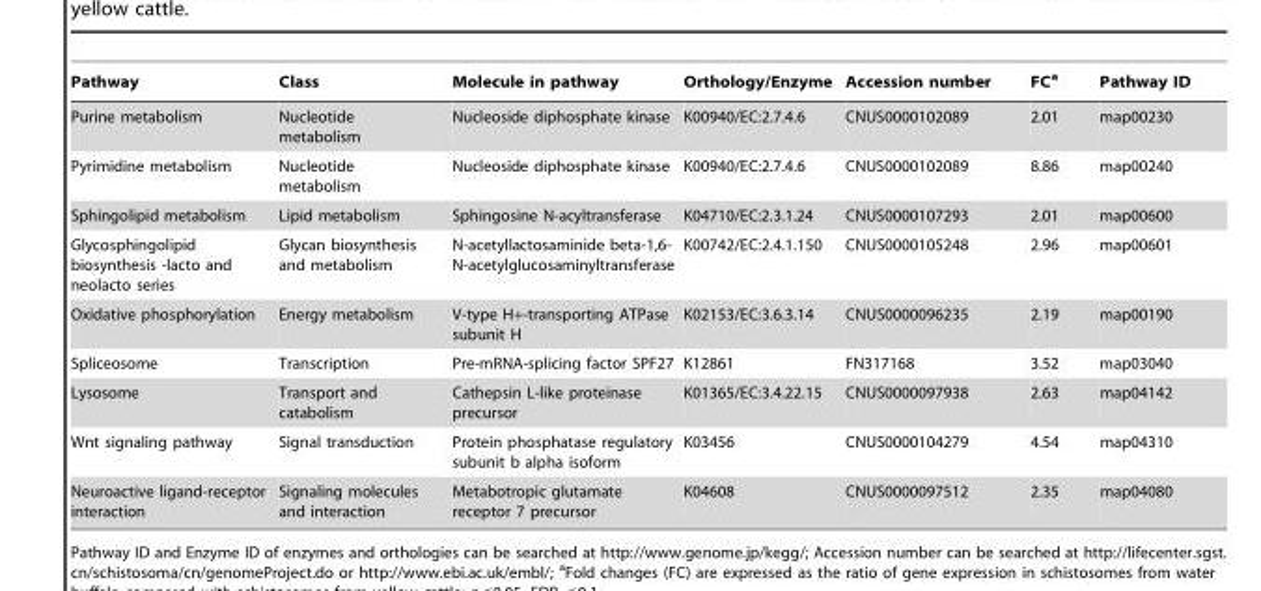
<table><thead><tr><td>Pathway</td><td>Class</td><td>Molecule in pathway</td><td>Orthology/Enzyme</td><td>Accession number</td><td>FC<sup>a</sup></td><td>Pathway ID</td></tr></thead><tbody><tr><td>Purine metabolism</td><td>Nucleotide metabolism</td><td>Nucleoside diphosphate kinase</td><td>K00940/EC:2.7.4.6</td><td>CNUS0000102089</td><td>2.01</td><td>map00230</td></tr><tr><td>Pyrimidine metabolism</td><td>Nucleotide metabolism</td><td>Nucleoside diphosphate kinase</td><td>K00940/EC:2.7.4.6</td><td>CNUS0000102089</td><td>8.86</td><td>map00240</td></tr><tr><td>Sphingolipid metabolism</td><td>Lipid metabolism</td><td>Sphingosine N-acyltransferase</td><td>K04710/EC:2.3.1.24</td><td>CNUS0000107293</td><td>2.01</td><td>map00600</td></tr><tr><td>Glycosphingolipid biosynthesis -lacto and neolacto series</td><td>Glycan biosynthesis and metabolism</td><td>N-acetyllactosaminide beta-1,6- N-acetylglucosaminyltransferase</td><td>K00742/EC:2.4.1.150</td><td>CNUS0000105248</td><td>2.96</td><td>map00601</td></tr><tr><td>Oxidative phosphorylation</td><td>Energy metabolism</td><td>V-type H+-transporting ATPase subunit H</td><td>K02153/EC:3.6.3.14</td><td>CNUS0000096235</td><td>2.19</td><td>map00190</td></tr><tr><td>Spliceosome</td><td>Transcription</td><td>Pre-mRNA-splicing factor SPF27</td><td>K12861</td><td>FN317168</td><td>3.52</td><td>map03040</td></tr><tr><td>Lysosome</td><td>Transport and catabolism</td><td>Cathepsin L-like proteinase precursor</td><td>K01365/EC:3.4.22.15</td><td>CNUS0000097938</td><td>2.63</td><td>map04142</td></tr><tr><td>Wnt signaling pathway</td><td>Signal transduction</td><td>Protein phosphatase regulatory subunit b alpha isoform</td><td>K03456</td><td>CNUS0000104279</td><td>4.54</td><td>map04310</td></tr><tr><td>Neuroactive ligand-receptor interaction</td><td>Signaling molecules and interaction</td><td>Metabotropic glutamate receptor 7 precursor</td><td>K04608</td><td>CNUS0000097512</td><td>2.35</td><td>map04080</td></tr></tbody></table>